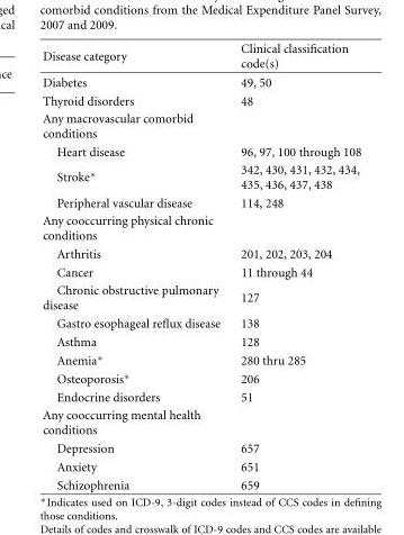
<table><thead><tr><td>Disease category</td><td>Clinical classification code(s)</td></tr></thead><tbody><tr><td>Diabetes</td><td>49, 50</td></tr><tr><td>Thyroid disorders</td><td>48</td></tr><tr><td colspan="2">Any macrovascular comorbid conditions</td></tr><tr><td>Heart disease</td><td>96, 97, 100 through 108</td></tr><tr><td>Stroke∗</td><td>342, 430, 431, 432, 434, 435, 436, 437, 438</td></tr><tr><td>Peripheral vascular disease</td><td>114, 248</td></tr><tr><td colspan="2">Any cooccurring physical chronic conditions</td></tr><tr><td>Arthritis</td><td>201, 202, 203, 204</td></tr><tr><td>Cancer</td><td>11 through 44</td></tr><tr><td>Chronic obstructive pulmonary disease</td><td>127</td></tr><tr><td>Gastro esophageal reflux disease</td><td>138</td></tr><tr><td>Asthma</td><td>128</td></tr><tr><td>Anemia∗</td><td>280 thru 285</td></tr><tr><td>Osteoporosis∗</td><td>206</td></tr><tr><td>Endocrine disorders</td><td>51</td></tr><tr><td colspan="2">Any cooccurring mental health conditions</td></tr><tr><td>Depression</td><td>657</td></tr><tr><td>Anxiety</td><td>651</td></tr><tr><td>Schizophrenia</td><td>659</td></tr></tbody></table>